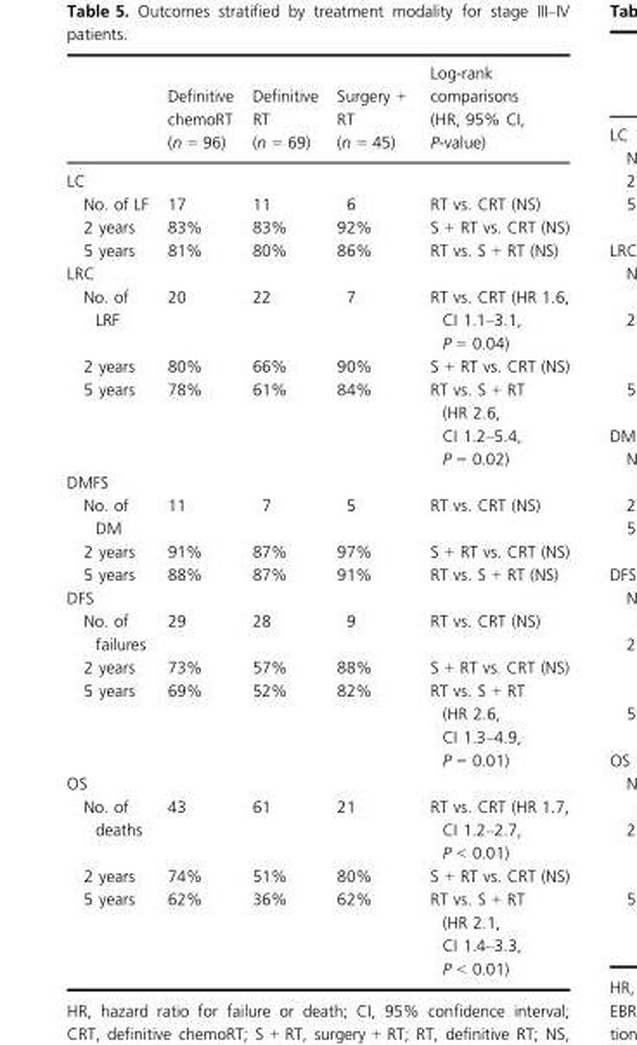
<table><thead><tr><td></td><td>Definitive chemoRT (n = 96)</td><td>Definitive RT (n = 69)</td><td>Surgery + RT (n = 45)</td><td>Log-rank comparisons (HR, 95% CI, P-value)</td></tr></thead><tbody><tr><td colspan="5">LC</td></tr><tr><td>No. of LF</td><td>17</td><td>11</td><td>6</td><td>RT vs. CRT (NS)</td></tr><tr><td>2 years</td><td>83%</td><td>83%</td><td>92%</td><td>S + RT vs. CRT (NS)</td></tr><tr><td>5 years</td><td>81%</td><td>80%</td><td>86%</td><td>RT vs. S + RT (NS)</td></tr><tr><td colspan="5">LRC</td></tr><tr><td>No. of LRF</td><td>20</td><td>22</td><td>7</td><td>RT vs. CRT (HR 1.6, CI 1.1–3.1, P = 0.04)</td></tr><tr><td>2 years</td><td>80%</td><td>66%</td><td>90%</td><td>S + RT vs. CRT (NS)</td></tr><tr><td>5 years</td><td>78%</td><td>61%</td><td>84%</td><td>RT vs. S + RT (HR 2.6, CI 1.2–5.4, P = 0.02)</td></tr><tr><td colspan="5">DMFS</td></tr><tr><td>No. of DM</td><td>11</td><td>7</td><td>5</td><td>RT vs. CRT (NS)</td></tr><tr><td>2 years</td><td>91%</td><td>87%</td><td>97%</td><td>S + RT vs. CRT (NS)</td></tr><tr><td>5 years</td><td>88%</td><td>87%</td><td>91%</td><td>RT vs. S + RT (NS)</td></tr><tr><td colspan="5">DFS</td></tr><tr><td>No. of failures</td><td>29</td><td>28</td><td>9</td><td>RT vs. CRT (NS)</td></tr><tr><td>2 years</td><td>73%</td><td>57%</td><td>88%</td><td>S + RT vs. CRT (NS)</td></tr><tr><td>5 years</td><td>69%</td><td>52%</td><td>82%</td><td>RT vs. S + RT (HR 2.6, CI 1.3–4.9, P = 0.01)</td></tr><tr><td colspan="5">OS</td></tr><tr><td>No. of deaths</td><td>43</td><td>61</td><td>21</td><td>RT vs. CRT (HR 1.7, CI 1.2–2.7, P &lt; 0.01)</td></tr><tr><td>2 years</td><td>74%</td><td>51%</td><td>80%</td><td>S + RT vs. CRT (NS)</td></tr><tr><td>5 years</td><td>62%</td><td>36%</td><td>62%</td><td>RT vs. S + RT (HR 2.1, CI 1.4–3.3, P &lt; 0.01)</td></tr></tbody></table>